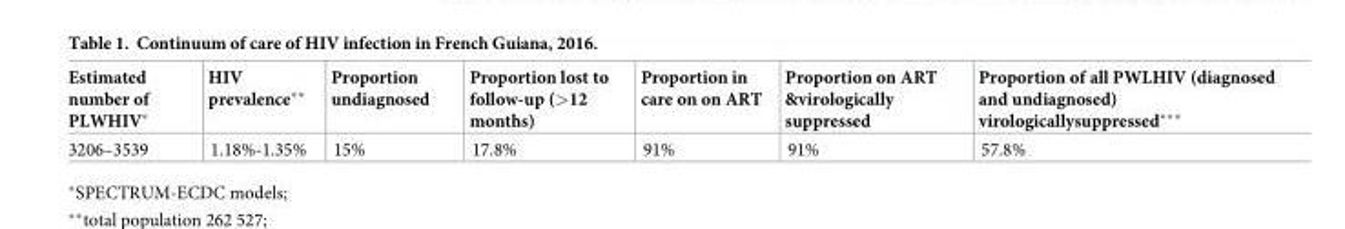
<table><thead><tr><td>Estimated number of PLWHIV*</td><td>HIV prevalence**</td><td>Proportion undiagnosed</td><td>Proportion lost to follow-up (&gt;12 months)</td><td>Proportion in care on on ART</td><td>Proportion on ART &amp;virologically suppressed</td><td>Proportion of all PWLHIV (diagnosed and undiagnosed) virologicallysuppressed***</td></tr></thead><tbody><tr><td>3206–3539</td><td>1.18%-1.35%</td><td>15%</td><td>17.8%</td><td>91%</td><td>91%</td><td>57.8%</td></tr></tbody></table>